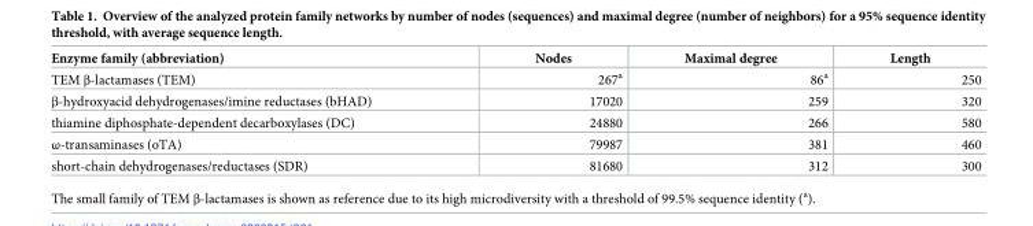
<table><thead><tr><td>Enzyme family (abbreviation)</td><td>Nodes</td><td>Maximal degree</td><td>Length</td></tr></thead><tbody><tr><td>TEM β-lactamases (TEM)</td><td>267<sup>a</sup></td><td>86<sup>a</sup></td><td>250</td></tr><tr><td>β-hydroxyacid dehydrogenases/imine reductases (bHAD)</td><td>17020</td><td>259</td><td>320</td></tr><tr><td>thiamine diphosphate-dependent decarboxylases (DC)</td><td>24880</td><td>266</td><td>580</td></tr><tr><td>ω-transaminases (oTA)</td><td>79987</td><td>381</td><td>460</td></tr><tr><td>short-chain dehydrogenases/reductases (SDR)</td><td>81680</td><td>312</td><td>300</td></tr></tbody></table>